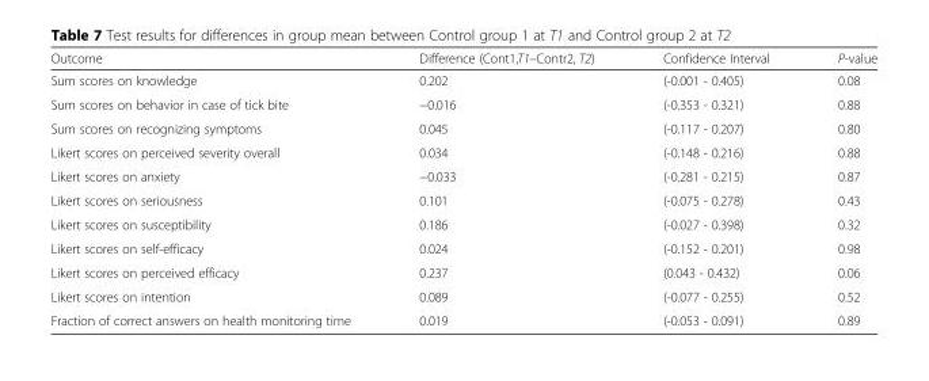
<table><thead><tr><td>Outcome</td><td>Difference (Cont1,T1–Contr2, T2)</td><td>Confidence Interval</td><td>P-value</td></tr></thead><tbody><tr><td>Sum scores on knowledge</td><td>0.202</td><td>(-0.001 - 0.405)</td><td>0.08</td></tr><tr><td>Sum scores on behavior in case of tick bite</td><td>−0.016</td><td>(-0.353 - 0.321)</td><td>0.88</td></tr><tr><td>Sum scores on recognizing symptoms</td><td>0.045</td><td>(-0.117 - 0.207)</td><td>0.80</td></tr><tr><td>Likert scores on perceived severity overall</td><td>0.034</td><td>(-0.148 - 0.216)</td><td>0.88</td></tr><tr><td>Likert scores on anxiety</td><td>−0.033</td><td>(-0.281 - 0.215)</td><td>0.87</td></tr><tr><td>Likert scores on seriousness</td><td>0.101</td><td>(-0.075 - 0.278)</td><td>0.43</td></tr><tr><td>Likert scores on susceptibility</td><td>0.186</td><td>(-0.027 - 0.398)</td><td>0.32</td></tr><tr><td>Likert scores on self-efficacy</td><td>0.024</td><td>(-0.152 - 0.201)</td><td>0.98</td></tr><tr><td>Likert scores on perceived efficacy</td><td>0.237</td><td>(0.043 - 0.432)</td><td>0.06</td></tr><tr><td>Likert scores on intention</td><td>0.089</td><td>(-0.077 - 0.255)</td><td>0.52</td></tr><tr><td>Fraction of correct answers on health monitoring time</td><td>0.019</td><td>(-0.053 - 0.091)</td><td>0.89</td></tr></tbody></table>